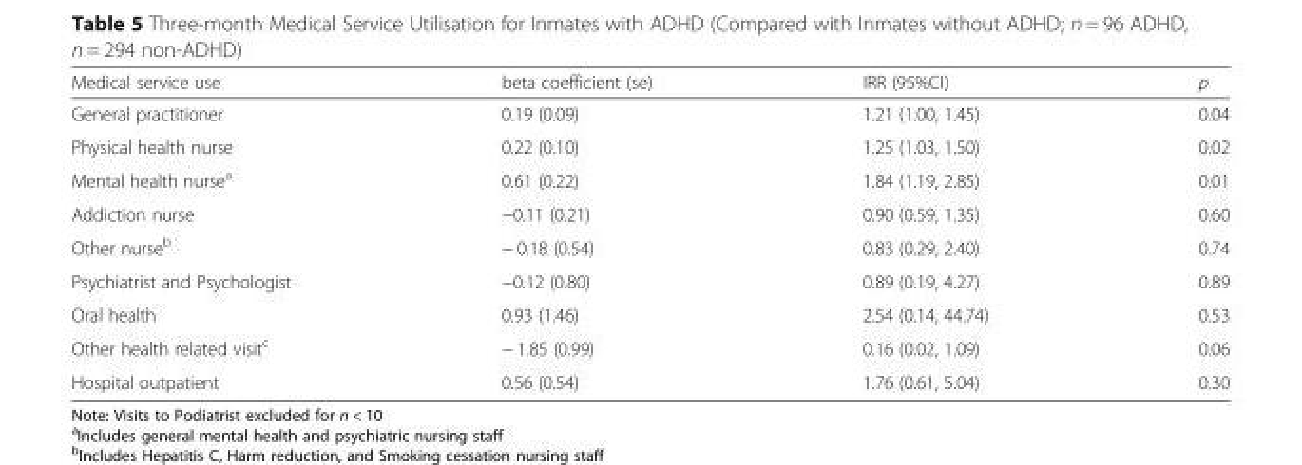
<table><thead><tr><td>Medical service use</td><td>beta coefficient (se)</td><td>IRR (95%CI)</td><td>p</td></tr></thead><tbody><tr><td>General practitioner</td><td>0.19 (0.09)</td><td>1.21 (1.00, 1.45)</td><td>0.04</td></tr><tr><td>Physical health nurse</td><td>0.22 (0.10)</td><td>1.25 (1.03, 1.50)</td><td>0.02</td></tr><tr><td>Mental health nurse<sup>a</sup></td><td>0.61 (0.22)</td><td>1.84 (1.19, 2.85)</td><td>0.01</td></tr><tr><td>Addiction nurse</td><td>−0.11 (0.21)</td><td>0.90 (0.59, 1.35)</td><td>0.60</td></tr><tr><td>Other nurse<sup>b</sup></td><td>− 0.18 (0.54)</td><td>0.83 (0.29, 2.40)</td><td>0.74</td></tr><tr><td>Psychiatrist and Psychologist</td><td>−0.12 (0.80)</td><td>0.89 (0.19, 4.27)</td><td>0.89</td></tr><tr><td>Oral health</td><td>0.93 (1.46)</td><td>2.54 (0.14, 44.74)</td><td>0.53</td></tr><tr><td>Other health related visit<sup>c</sup></td><td>− 1.85 (0.99)</td><td>0.16 (0.02, 1.09)</td><td>0.06</td></tr><tr><td>Hospital outpatient</td><td>0.56 (0.54)</td><td>1.76 (0.61, 5.04)</td><td>0.30</td></tr></tbody></table>